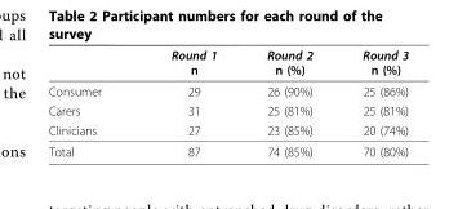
<table><thead><tr><td></td><td>Round 1 n</td><td>Round 2 n (%)</td><td>Round 3 n (%)</td></tr></thead><tbody><tr><td>Consumer</td><td>29</td><td>26 (90%)</td><td>25 (86%)</td></tr><tr><td>Carers</td><td>31</td><td>25 (81%)</td><td>25 (81%)</td></tr><tr><td>Clinicians</td><td>27</td><td>23 (85%)</td><td>20 (74%)</td></tr><tr><td>Total</td><td>87</td><td>74 (85%)</td><td>70 (80%)</td></tr></tbody></table>